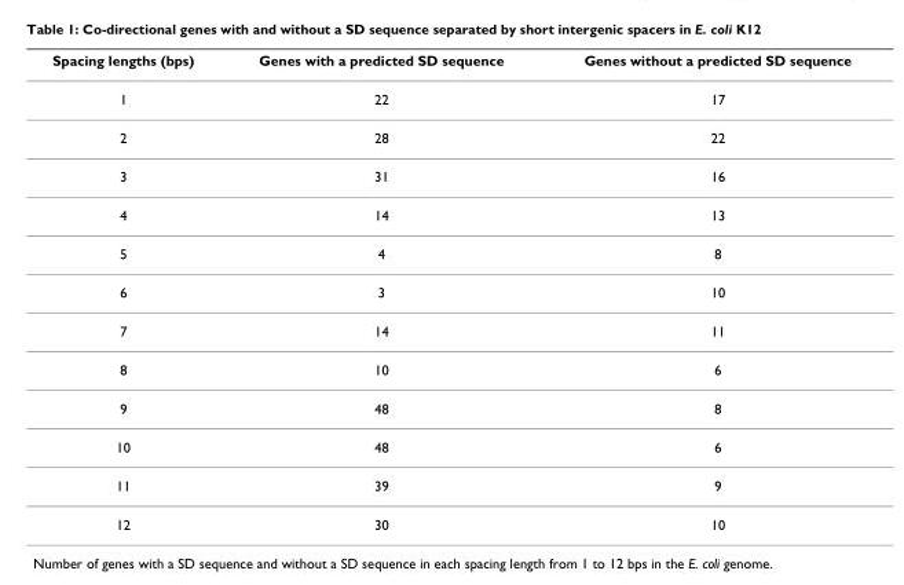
<table><thead><tr><td>Spacing lengths (bps)</td><td>Genes with a predicted SD sequence</td><td>Genes without a predicted SD sequence</td></tr></thead><tbody><tr><td>1</td><td>22</td><td>17</td></tr><tr><td>2</td><td>28</td><td>22</td></tr><tr><td>3</td><td>31</td><td>16</td></tr><tr><td>4</td><td>14</td><td>13</td></tr><tr><td>5</td><td>4</td><td>8</td></tr><tr><td>6</td><td>3</td><td>10</td></tr><tr><td>7</td><td>14</td><td>11</td></tr><tr><td>8</td><td>10</td><td>6</td></tr><tr><td>9</td><td>48</td><td>8</td></tr><tr><td>10</td><td>48</td><td>6</td></tr><tr><td>11</td><td>39</td><td>9</td></tr><tr><td>12</td><td>30</td><td>10</td></tr></tbody></table>